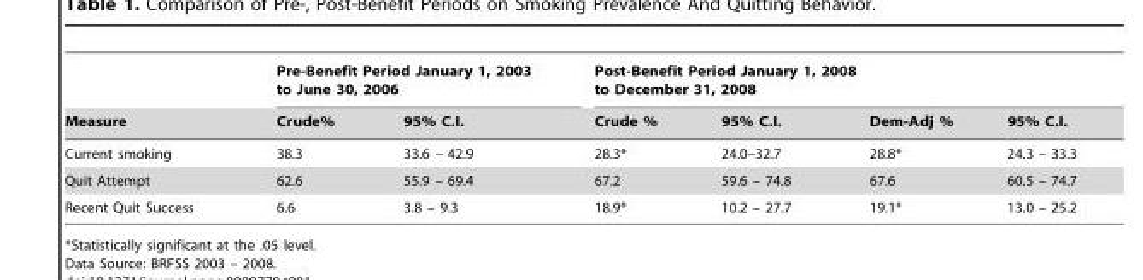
<table><thead><tr><td rowspan="2">Measure</td><td colspan="2">Pre-Benefit Period January 1, 2003 to June 30, 2006</td><td colspan="4">Post-Benefit Period January 1, 2008 to December 31, 2008</td></tr><tr><td>Crude%</td><td>95% C.I.</td><td>Crude %</td><td>95% C.I.</td><td>Dem-Adj %</td><td>95% C.I.</td></tr></thead><tbody><tr><td>Current smoking</td><td>38.3</td><td>33.6 – 42.9</td><td>28.3*</td><td>24.0–32.7</td><td>28.8*</td><td>24.3 – 33.3</td></tr><tr><td>Quit Attempt</td><td>62.6</td><td>55.9 – 69.4</td><td>67.2</td><td>59.6 – 74.8</td><td>67.6</td><td>60.5 – 74.7</td></tr><tr><td>Recent Quit Success</td><td>6.6</td><td>3.8 – 9.3</td><td>18.9*</td><td>10.2 – 27.7</td><td>19.1*</td><td>13.0 – 25.2</td></tr></tbody></table>